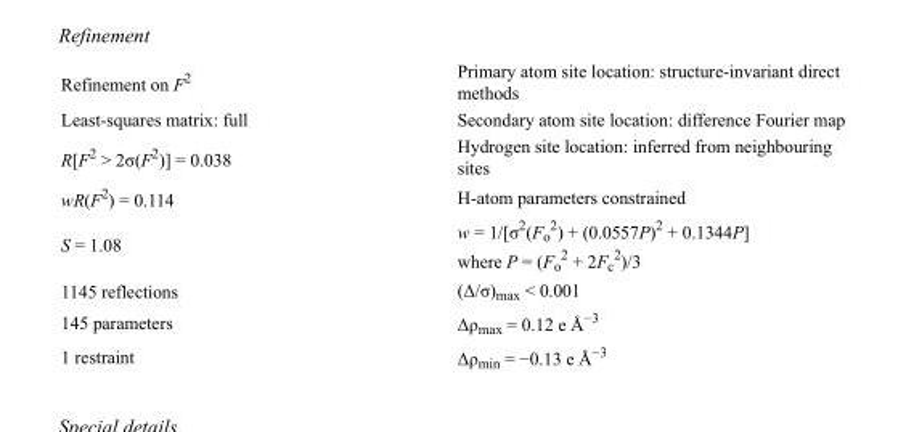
<table><tbody><tr><td>Refinement on F<sup>2</sup></td><td>Primary atom site location: structure-invariant direct methods</td></tr><tr><td>Least-squares matrix: full</td><td>Secondary atom site location: difference Fourier map</td></tr><tr><td>R[F<sup>2</sup> &gt; 2σ(F<sup>2</sup>)] = 0.038</td><td>Hydrogen site location: inferred from neighbouring sites</td></tr><tr><td>wR(F<sup>2</sup>) = 0.114</td><td>H-atom parameters constrained</td></tr><tr><td>S = 1.08</td><td>w = 1/[σ<sup>2</sup>(F<sub>o</sub> <sup>2</sup>) + (0.0557P)<sup>2</sup> + 0.1344P] where P = (F<sub>o</sub> <sup>2</sup> + 2F<sub>c</sub> <sup>2</sup>)/3</td></tr><tr><td>1145 reflections</td><td>(Δ/σ)<sub>max</sub> &lt; 0.001</td></tr><tr><td>145 parameters</td><td>Δρ<sub>max</sub> = 0.12 e Å<sup>−3</sup></td></tr><tr><td>1 restraint</td><td>Δρ<sub>min</sub> = −0.13 e Å<sup>−3</sup></td></tr></tbody></table>